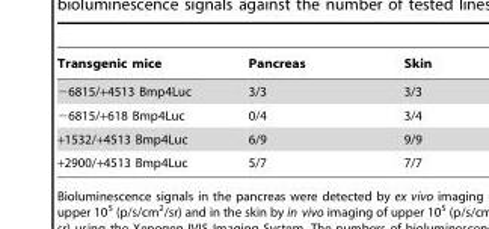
<table><thead><tr><td>Transgenic mice</td><td>Pancreas</td><td>Skin</td></tr></thead><tbody><tr><td>−6815/+4513 Bmp4Luc</td><td>3/3</td><td>3/3</td></tr><tr><td>−6815/+618 Bmp4Luc</td><td>0/4</td><td>3/4</td></tr><tr><td>+1532/+4513 Bmp4Luc</td><td>6/9</td><td>9/9</td></tr><tr><td>+2900/+4513 Bmp4Luc</td><td>5/7</td><td>7/7</td></tr></tbody></table>